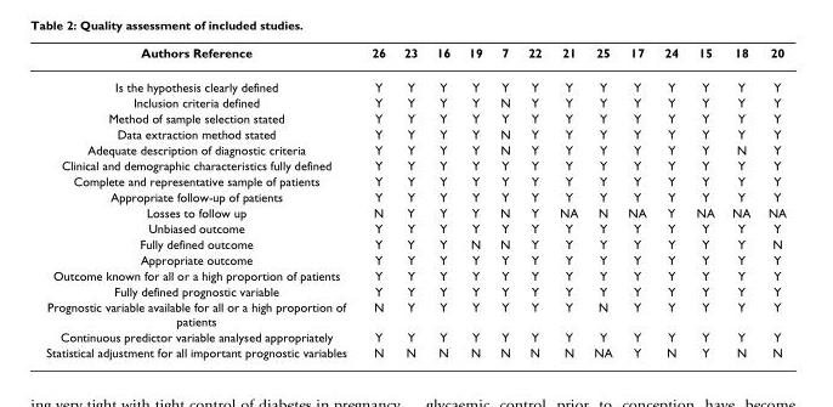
<table><thead><tr><td>Authors Reference</td><td>26</td><td>23</td><td>16</td><td>19</td><td>7</td><td>22</td><td>21</td><td>25</td><td>17</td><td>24</td><td>15</td><td>18</td><td>20</td></tr></thead><tbody><tr><td>Is the hypothesis clearly defined</td><td>Y</td><td>Y</td><td>Y</td><td>Y</td><td>Y</td><td>Y</td><td>Y</td><td>Y</td><td>Y</td><td>Y</td><td>Y</td><td>Y</td><td>Y</td></tr><tr><td>Inclusion criteria defined</td><td>Y</td><td>Y</td><td>Y</td><td>Y</td><td>N</td><td>Y</td><td>Y</td><td>Y</td><td>Y</td><td>Y</td><td>Y</td><td>Y</td><td>Y</td></tr><tr><td>Method of sample selection stated</td><td>Y</td><td>Y</td><td>Y</td><td>Y</td><td>Y</td><td>Y</td><td>Y</td><td>Y</td><td>Y</td><td>Y</td><td>Y</td><td>Y</td><td>Y</td></tr><tr><td>Data extraction method stated</td><td>Y</td><td>Y</td><td>Y</td><td>Y</td><td>N</td><td>Y</td><td>Y</td><td>Y</td><td>Y</td><td>Y</td><td>Y</td><td>Y</td><td>Y</td></tr><tr><td>Adequate description of diagnostic criteria</td><td>Y</td><td>Y</td><td>Y</td><td>Y</td><td>N</td><td>Y</td><td>Y</td><td>Y</td><td>Y</td><td>Y</td><td>Y</td><td>N</td><td>Y</td></tr><tr><td>Clinical and demographic characteristics fully defined</td><td>Y</td><td>Y</td><td>Y</td><td>Y</td><td>Y</td><td>Y</td><td>Y</td><td>Y</td><td>Y</td><td>Y</td><td>Y</td><td>Y</td><td>Y</td></tr><tr><td>Complete and representative sample of patients</td><td>Y</td><td>Y</td><td>Y</td><td>Y</td><td>Y</td><td>Y</td><td>Y</td><td>Y</td><td>Y</td><td>Y</td><td>Y</td><td>Y</td><td>Y</td></tr><tr><td>Appropriate follow-up of patients</td><td>Y</td><td>Y</td><td>Y</td><td>Y</td><td>Y</td><td>Y</td><td>Y</td><td>Y</td><td>Y</td><td>Y</td><td>Y</td><td>Y</td><td>Y</td></tr><tr><td>Losses to follow up</td><td>N</td><td>Y</td><td>Y</td><td>Y</td><td>N</td><td>Y</td><td>NA</td><td>N</td><td>NA</td><td>Y</td><td>NA</td><td>NA</td><td>NA</td></tr><tr><td>Unbiased outcome</td><td>Y</td><td>Y</td><td>Y</td><td>Y</td><td>Y</td><td>Y</td><td>Y</td><td>Y</td><td>Y</td><td>Y</td><td>Y</td><td>Y</td><td>Y</td></tr><tr><td>Fully defined outcome</td><td>Y</td><td>Y</td><td>Y</td><td>N</td><td>N</td><td>Y</td><td>Y</td><td>Y</td><td>Y</td><td>Y</td><td>Y</td><td>Y</td><td>N</td></tr><tr><td>Appropriate outcome</td><td>Y</td><td>Y</td><td>Y</td><td>Y</td><td>Y</td><td>Y</td><td>Y</td><td>Y</td><td>Y</td><td>Y</td><td>Y</td><td>Y</td><td>Y</td></tr><tr><td>Outcome known for all or a high proportion of patients</td><td>Y</td><td>Y</td><td>Y</td><td>Y</td><td>Y</td><td>Y</td><td>Y</td><td>Y</td><td>Y</td><td>Y</td><td>Y</td><td>Y</td><td>Y</td></tr><tr><td>Fully defined prognostic variable</td><td>Y</td><td>Y</td><td>Y</td><td>Y</td><td>Y</td><td>Y</td><td>Y</td><td>Y</td><td>Y</td><td>Y</td><td>Y</td><td>Y</td><td>Y</td></tr><tr><td>Prognostic variable available for all or a high proportion of patients</td><td>N</td><td>Y</td><td>Y</td><td>Y</td><td>Y</td><td>Y</td><td>Y</td><td>N</td><td>Y</td><td>Y</td><td>Y</td><td>Y</td><td>Y</td></tr><tr><td>Continuous predictor variable analysed appropriately</td><td>Y</td><td>Y</td><td>Y</td><td>Y</td><td>Y</td><td>Y</td><td>Y</td><td>Y</td><td>Y</td><td>Y</td><td>Y</td><td>Y</td><td>Y</td></tr><tr><td>Statistical adjustment for all important prognostic variables</td><td>N</td><td>N</td><td>N</td><td>N</td><td>N</td><td>N</td><td>N</td><td>NA</td><td>Y</td><td>N</td><td>Y</td><td>N</td><td>N</td></tr></tbody></table>